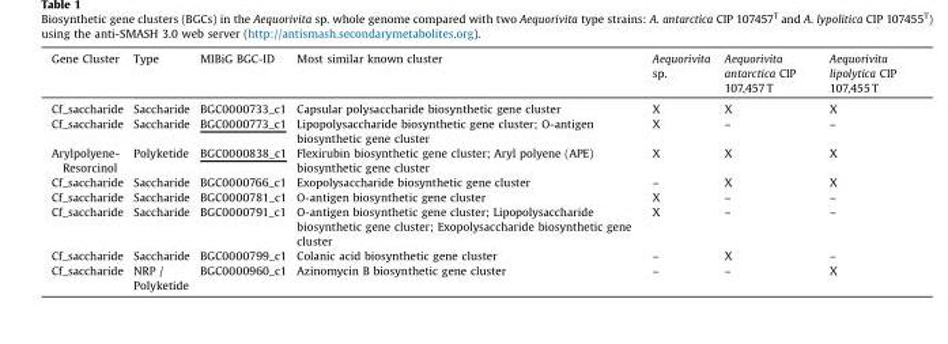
<table><thead><tr><td>Gene Cluster</td><td>Type</td><td>MIBiG BGC-ID</td><td>Most similar known cluster</td><td>Aequorivita sp.</td><td>Aequorivita antarctica CIP 107,457 T</td><td>Aequorivita lipolytica CIP 107,455 T</td></tr></thead><tbody><tr><td>Cf_saccharide</td><td>Saccharide</td><td>BGC0000733_c1</td><td>Capsular polysaccharide biosynthetic gene cluster</td><td>X</td><td>X</td><td>X</td></tr><tr><td>Cf_saccharide</td><td>Saccharide</td><td>BGC0000773_c1</td><td>Lipopolysaccharide biosynthetic gene cluster; O-antigen biosynthetic gene cluster</td><td>X</td><td>–</td><td>–</td></tr><tr><td>Arylpolyene- Resorcinol</td><td>Polyketide</td><td>BGC0000838_c1</td><td>Flexirubin biosynthetic gene cluster; Aryl polyene (APE) biosynthetic gene cluster</td><td>X</td><td>X</td><td>X</td></tr><tr><td>Cf_saccharide</td><td>Saccharide</td><td>BGC0000766_c1</td><td>Exopolysaccharide biosynthetic gene cluster</td><td>–</td><td>X</td><td>X</td></tr><tr><td>Cf_saccharide</td><td>Saccharide</td><td>BGC0000781_c1</td><td>O-antigen biosynthetic gene cluster</td><td>X</td><td>–</td><td>–</td></tr><tr><td>Cf_saccharide</td><td>Saccharide</td><td>BGC0000791_c1</td><td>O-antigen biosynthetic gene cluster; Lipopolysaccharide biosynthetic gene cluster; Exopolysaccharide biosynthetic gene cluster</td><td>X</td><td>–</td><td>–</td></tr><tr><td>Cf_saccharide</td><td>Saccharide</td><td>BGC0000799_c1</td><td>Colanic acid biosynthetic gene cluster</td><td>–</td><td>X</td><td>–</td></tr><tr><td>Cf_saccharide</td><td>NRP / Polyketide</td><td>BGC0000960_c1</td><td>Azinomycin B biosynthetic gene cluster</td><td>–</td><td>–</td><td>X</td></tr></tbody></table>